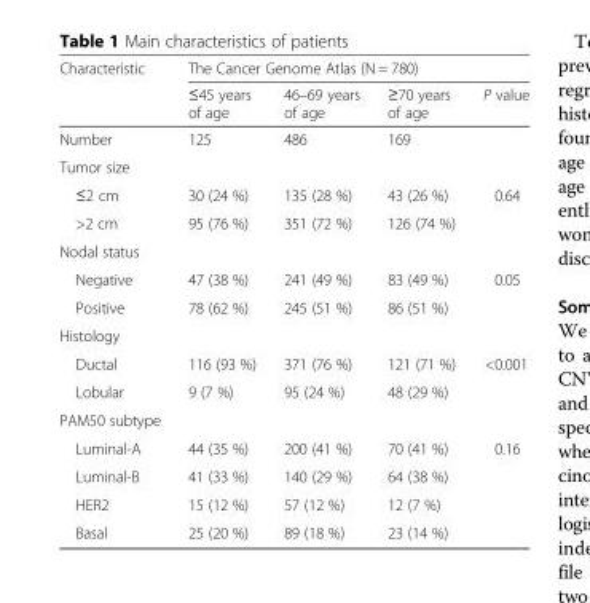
<table><thead><tr><td rowspan="2">Characteristic</td><td colspan="4">The Cancer Genome Atlas (N = 780)</td></tr><tr><td>≤45 years of age</td><td>46–69 years of age</td><td>≥70 years of age</td><td>P value</td></tr></thead><tbody><tr><td>Number</td><td>125</td><td>486</td><td>169</td><td></td></tr><tr><td colspan="5">Tumor size</td></tr><tr><td>≤2 cm</td><td>30 (24 %)</td><td>135 (28 %)</td><td>43 (26 %)</td><td>0.64</td></tr><tr><td>&gt;2 cm</td><td>95 (76 %)</td><td>351 (72 %)</td><td>126 (74 %)</td><td></td></tr><tr><td colspan="5">Nodal status</td></tr><tr><td>Negative</td><td>47 (38 %)</td><td>241 (49 %)</td><td>83 (49 %)</td><td>0.05</td></tr><tr><td>Positive</td><td>78 (62 %)</td><td>245 (51 %)</td><td>86 (51 %)</td><td></td></tr><tr><td colspan="5">Histology</td></tr><tr><td>Ductal</td><td>116 (93 %)</td><td>371 (76 %)</td><td>121 (71 %)</td><td>&lt;0.001</td></tr><tr><td>Lobular</td><td>9 (7 %)</td><td>95 (24 %)</td><td>48 (29 %)</td><td></td></tr><tr><td colspan="5">PAM50 subtype</td></tr><tr><td>Luminal-A</td><td>44 (35 %)</td><td>200 (41 %)</td><td>70 (41 %)</td><td>0.16</td></tr><tr><td>Luminal-B</td><td>41 (33 %)</td><td>140 (29 %)</td><td>64 (38 %)</td><td></td></tr><tr><td>HER2</td><td>15 (12 %)</td><td>57 (12 %)</td><td>12 (7 %)</td><td></td></tr><tr><td>Basal</td><td>25 (20 %)</td><td>89 (18 %)</td><td>23 (14 %)</td><td></td></tr></tbody></table>